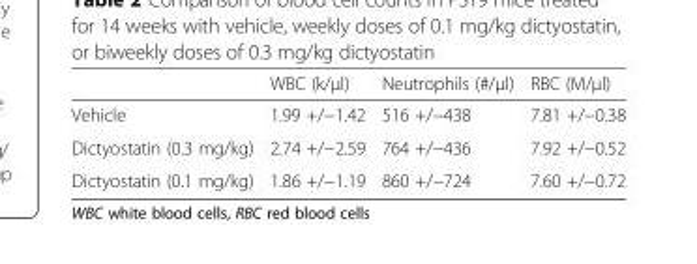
<table><thead><tr><td></td><td>WBC (k/μl)</td><td>Neutrophils (#/μl)</td><td>RBC (M/μl)</td></tr></thead><tbody><tr><td>Vehicle</td><td>1.99 +/−1.42</td><td>516 +/−438</td><td>7.81 +/−0.38</td></tr><tr><td>Dictyostatin (0.3 mg/kg)</td><td>2.74 +/−2.59</td><td>764 +/−436</td><td>7.92 +/−0.52</td></tr><tr><td>Dictyostatin (0.1 mg/kg)</td><td>1.86 +/−1.19</td><td>860 +/−724</td><td>7.60 +/−0.72</td></tr></tbody></table>